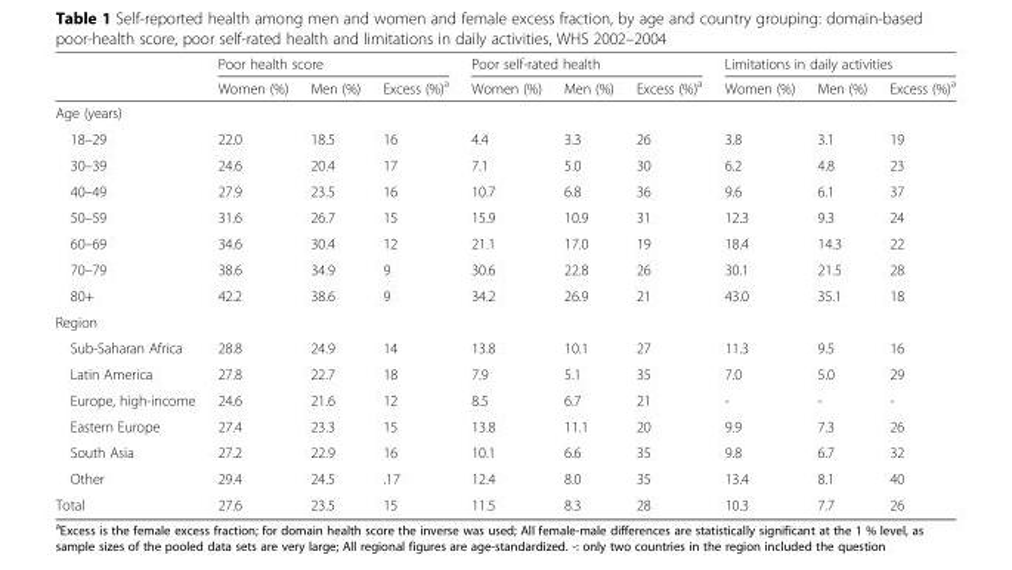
<table><thead><tr><td rowspan="2"></td><td colspan="3">Poor health score</td><td colspan="3">Poor self-rated health</td><td colspan="3">Limitations in daily activities</td></tr><tr><td>Women (%)</td><td>Men (%)</td><td>Excess (%)<sup>a</sup></td><td>Women (%)</td><td>Men (%)</td><td>Excess (%)<sup>a</sup></td><td>Women (%)</td><td>Men (%)</td><td>Excess (%)<sup>a</sup></td></tr></thead><tbody><tr><td colspan="10">Age (years)</td></tr><tr><td>18–29</td><td>22.0</td><td>18.5</td><td>16</td><td>4.4</td><td>3.3</td><td>26</td><td>3.8</td><td>3.1</td><td>19</td></tr><tr><td>30–39</td><td>24.6</td><td>20.4</td><td>17</td><td>7.1</td><td>5.0</td><td>30</td><td>6.2</td><td>4.8</td><td>23</td></tr><tr><td>40–49</td><td>27.9</td><td>23.5</td><td>16</td><td>10.7</td><td>6.8</td><td>36</td><td>9.6</td><td>6.1</td><td>37</td></tr><tr><td>50–59</td><td>31.6</td><td>26.7</td><td>15</td><td>15.9</td><td>10.9</td><td>31</td><td>12.3</td><td>9.3</td><td>24</td></tr><tr><td>60–69</td><td>34.6</td><td>30.4</td><td>12</td><td>21.1</td><td>17.0</td><td>19</td><td>18.4</td><td>14.3</td><td>22</td></tr><tr><td>70–79</td><td>38.6</td><td>34.9</td><td>9</td><td>30.6</td><td>22.8</td><td>26</td><td>30.1</td><td>21.5</td><td>28</td></tr><tr><td>80+</td><td>42.2</td><td>38.6</td><td>9</td><td>34.2</td><td>26.9</td><td>21</td><td>43.0</td><td>35.1</td><td>18</td></tr><tr><td colspan="10">Region</td></tr><tr><td>Sub-Saharan Africa</td><td>28.8</td><td>24.9</td><td>14</td><td>13.8</td><td>10.1</td><td>27</td><td>11.3</td><td>9.5</td><td>16</td></tr><tr><td>Latin America</td><td>27.8</td><td>22.7</td><td>18</td><td>7.9</td><td>5.1</td><td>35</td><td>7.0</td><td>5.0</td><td>29</td></tr><tr><td>Europe, high-income</td><td>24.6</td><td>21.6</td><td>12</td><td>8.5</td><td>6.7</td><td>21</td><td>-</td><td>-</td><td>-</td></tr><tr><td>Eastern Europe</td><td>27.4</td><td>23.3</td><td>15</td><td>13.8</td><td>11.1</td><td>20</td><td>9.9</td><td>7.3</td><td>26</td></tr><tr><td>South Asia</td><td>27.2</td><td>22.9</td><td>16</td><td>10.1</td><td>6.6</td><td>35</td><td>9.8</td><td>6.7</td><td>32</td></tr><tr><td>Other</td><td>29.4</td><td>24.5</td><td>.17</td><td>12.4</td><td>8.0</td><td>35</td><td>13.4</td><td>8.1</td><td>40</td></tr><tr><td>Total</td><td>27.6</td><td>23.5</td><td>15</td><td>11.5</td><td>8.3</td><td>28</td><td>10.3</td><td>7.7</td><td>26</td></tr></tbody></table>